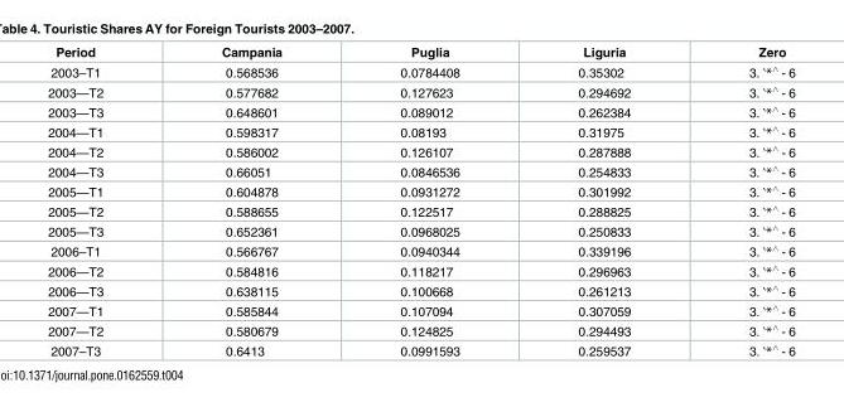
<table><thead><tr><td>Period</td><td>Campania</td><td>Puglia</td><td>Liguria</td><td>Zero</td></tr></thead><tbody><tr><td>2003–T1</td><td>0.568536</td><td>0.0784408</td><td>0.35302</td><td>3. ‵*<sup>∧</sup> - 6</td></tr><tr><td>2003—T2</td><td>0.577682</td><td>0.127623</td><td>0.294692</td><td>3. ‵*<sup>∧</sup> - 6</td></tr><tr><td>2003—T3</td><td>0.648601</td><td>0.089012</td><td>0.262384</td><td>3. ‵*<sup>∧</sup> - 6</td></tr><tr><td>2004—T1</td><td>0.598317</td><td>0.08193</td><td>0.31975</td><td>3. ‵*<sup>∧</sup> - 6</td></tr><tr><td>2004—T2</td><td>0.586002</td><td>0.126107</td><td>0.287888</td><td>3. ‵*<sup>∧</sup> - 6</td></tr><tr><td>2004—T3</td><td>0.66051</td><td>0.0846536</td><td>0.254833</td><td>3. ‵*<sup>∧</sup> - 6</td></tr><tr><td>2005—T1</td><td>0.604878</td><td>0.0931272</td><td>0.301992</td><td>3. ‵*<sup>∧</sup> - 6</td></tr><tr><td>2005—T2</td><td>0.588655</td><td>0.122517</td><td>0.288825</td><td>3. ‵*<sup>∧</sup> - 6</td></tr><tr><td>2005—T3</td><td>0.652361</td><td>0.0968025</td><td>0.250833</td><td>3. ‵*<sup>∧</sup> - 6</td></tr><tr><td>2006–T1</td><td>0.566767</td><td>0.0940344</td><td>0.339196</td><td>3. ‵*<sup>∧</sup> - 6</td></tr><tr><td>2006—T2</td><td>0.584816</td><td>0.118217</td><td>0.296963</td><td>3. ‵*<sup>∧</sup> - 6</td></tr><tr><td>2006—T3</td><td>0.638115</td><td>0.100668</td><td>0.261213</td><td>3. ‵*<sup>∧</sup> - 6</td></tr><tr><td>2007—T1</td><td>0.585844</td><td>0.107094</td><td>0.307059</td><td>3. ‵*<sup>∧</sup> - 6</td></tr><tr><td>2007—T2</td><td>0.580679</td><td>0.124825</td><td>0.294493</td><td>3. ‵*<sup>∧</sup> - 6</td></tr><tr><td>2007–T3</td><td>0.6413</td><td>0.0991593</td><td>0.259537</td><td>3. ‵*<sup>∧</sup> - 6</td></tr></tbody></table>